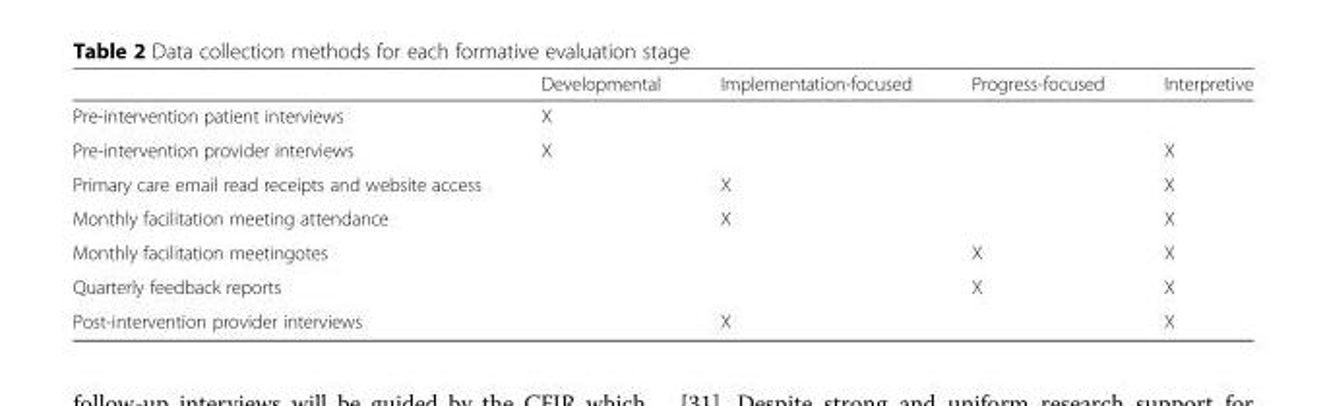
<table><thead><tr><td></td><td>Developmental</td><td>Implementation-focused</td><td>Progress-focused</td><td>Interpretive</td></tr></thead><tbody><tr><td>Pre-intervention patient interviews</td><td>X</td><td></td><td></td><td></td></tr><tr><td>Pre-intervention provider interviews</td><td>X</td><td></td><td></td><td>X</td></tr><tr><td>Primary care email read receipts and website access</td><td></td><td>X</td><td></td><td>X</td></tr><tr><td>Monthly facilitation meeting attendance</td><td></td><td>X</td><td></td><td>X</td></tr><tr><td>Monthly facilitation meetingotes</td><td></td><td></td><td>X</td><td>X</td></tr><tr><td>Quarterly feedback reports</td><td></td><td></td><td>X</td><td>X</td></tr><tr><td>Post-intervention provider interviews</td><td></td><td>X</td><td></td><td>X</td></tr></tbody></table>